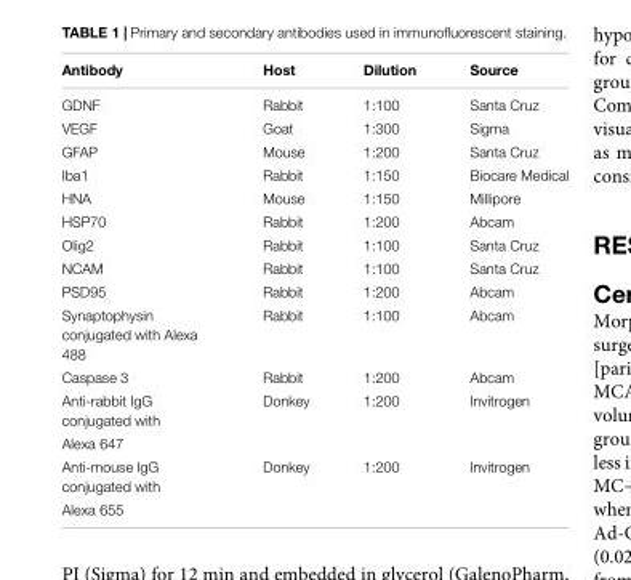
<table><thead><tr><td>Antibody</td><td>Host</td><td>Dilution</td><td>Source</td></tr></thead><tbody><tr><td>GDNF</td><td>Rabbit</td><td>1:100</td><td>Santa Cruz</td></tr><tr><td>VEGF</td><td>Goat</td><td>1:300</td><td>Sigma</td></tr><tr><td>GFAP</td><td>Mouse</td><td>1:200</td><td>Santa Cruz</td></tr><tr><td>Iba1</td><td>Rabbit</td><td>1:150</td><td>Biocare Medical</td></tr><tr><td>HNA</td><td>Mouse</td><td>1:150</td><td>Millipore</td></tr><tr><td>HSP70</td><td>Rabbit</td><td>1:200</td><td>Abcam</td></tr><tr><td>Olig2</td><td>Rabbit</td><td>1:100</td><td>Santa Cruz</td></tr><tr><td>NCAM</td><td>Rabbit</td><td>1:100</td><td>Santa Cruz</td></tr><tr><td>PSD95</td><td>Rabbit</td><td>1:200</td><td>Abcam</td></tr><tr><td>Synaptophysin conjugated with Alexa 488</td><td>Rabbit</td><td>1:100</td><td>Abcam</td></tr><tr><td>Caspase 3</td><td>Rabbit</td><td>1:200</td><td>Abcam</td></tr><tr><td>Anti-rabbit IgG conjugated with</td><td>Donkey</td><td>1:200</td><td>Invitrogen</td></tr><tr><td colspan="4">Alexa 647</td></tr><tr><td>Anti-mouse IgG conjugated with</td><td>Donkey</td><td>1:200</td><td>Invitrogen</td></tr><tr><td>Alexa 655</td><td></td><td></td><td></td></tr></tbody></table>